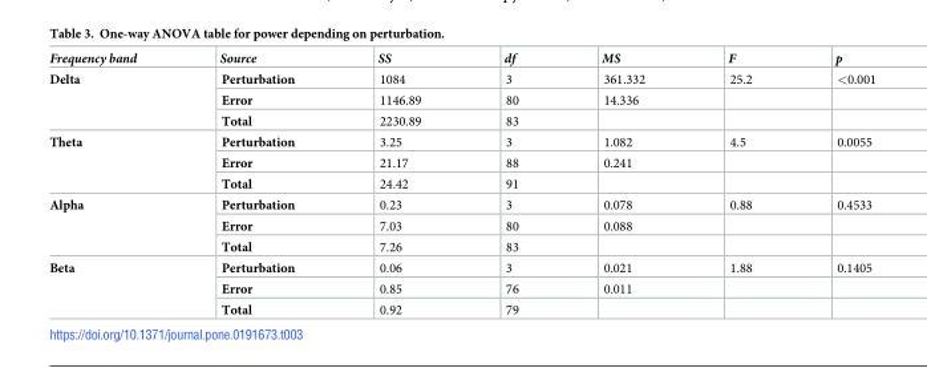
<table><thead><tr><td>Frequency band</td><td>Source</td><td>SS</td><td>df</td><td>MS</td><td>F</td><td>p</td></tr></thead><tbody><tr><td rowspan="3">Delta</td><td>Perturbation</td><td>1084</td><td>3</td><td>361.332</td><td>25.2</td><td>&lt;0.001</td></tr><tr><td>Error</td><td>1146.89</td><td>80</td><td>14.336</td><td></td><td></td></tr><tr><td>Total</td><td>2230.89</td><td>83</td><td></td><td></td><td></td></tr><tr><td rowspan="3">Theta</td><td>Perturbation</td><td>3.25</td><td>3</td><td>1.082</td><td>4.5</td><td>0.0055</td></tr><tr><td>Error</td><td>21.17</td><td>88</td><td>0.241</td><td></td><td></td></tr><tr><td>Total</td><td>24.42</td><td>91</td><td></td><td></td><td></td></tr><tr><td rowspan="3">Alpha</td><td>Perturbation</td><td>0.23</td><td>3</td><td>0.078</td><td>0.88</td><td>0.4533</td></tr><tr><td>Error</td><td>7.03</td><td>80</td><td>0.088</td><td></td><td></td></tr><tr><td>Total</td><td>7.26</td><td>83</td><td></td><td></td><td></td></tr><tr><td rowspan="3">Beta</td><td>Perturbation</td><td>0.06</td><td>3</td><td>0.021</td><td>1.88</td><td>0.1405</td></tr><tr><td>Error</td><td>0.85</td><td>76</td><td>0.011</td><td></td><td></td></tr><tr><td>Total</td><td>0.92</td><td>79</td><td></td><td></td><td></td></tr></tbody></table>